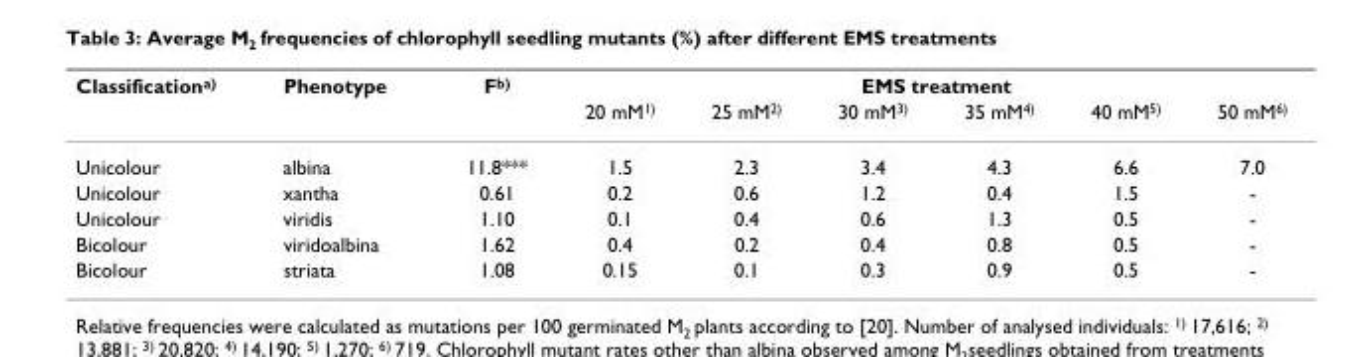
<table><thead><tr><td rowspan="2">Classification<sup>a)</sup></td><td rowspan="2">Phenotype</td><td rowspan="2">F<sup>b)</sup></td><td colspan="6">EMS treatment</td></tr><tr><td>20 mM<sup>1)</sup></td><td>25 mM<sup>2)</sup></td><td>30 mM<sup>3)</sup></td><td>35 mM<sup>4)</sup></td><td>40 mM<sup>5)</sup></td><td>50 mM<sup>6)</sup></td></tr></thead><tbody><tr><td>Unicolour</td><td>albina</td><td>11.8***</td><td>1.5</td><td>2.3</td><td>3.4</td><td>4.3</td><td>6.6</td><td>7.0</td></tr><tr><td>Unicolour</td><td>xantha</td><td>0.61</td><td>0.2</td><td>0.6</td><td>1.2</td><td>0.4</td><td>1.5</td><td>-</td></tr><tr><td>Unicolour</td><td>viridis</td><td>1.10</td><td>0.1</td><td>0.4</td><td>0.6</td><td>1.3</td><td>0.5</td><td>-</td></tr><tr><td>Bicolour</td><td>viridoalbina</td><td>1.62</td><td>0.4</td><td>0.2</td><td>0.4</td><td>0.8</td><td>0.5</td><td>-</td></tr><tr><td>Bicolour</td><td>striata</td><td>1.08</td><td>0.15</td><td>0.1</td><td>0.3</td><td>0.9</td><td>0.5</td><td>-</td></tr></tbody></table>